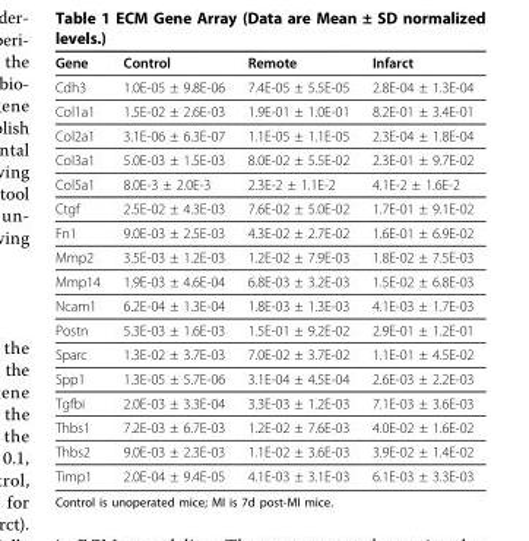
<table><thead><tr><td>Gene</td><td>Control</td><td>Remote</td><td>Infarct</td></tr></thead><tbody><tr><td>Cdh3</td><td>1.0E-05 ± 9.8E-06</td><td>7.4E-05 ± 5.5E-05</td><td>2.8E-04 ± 1.3E-04</td></tr><tr><td>Col1a1</td><td>1.5E-02 ± 2.6E-03</td><td>1.9E-01 ± 1.0E-01</td><td>8.2E-01 ± 3.4E-01</td></tr><tr><td>Col2a1</td><td>3.1E-06 ± 6.3E-07</td><td>1.1E-05 ± 1.1E-05</td><td>2.3E-04 ± 1.8E-04</td></tr><tr><td>Col3a1</td><td>5.0E-03 ± 1.5E-03</td><td>8.0E-02 ± 5.5E-02</td><td>2.3E-01 ± 9.7E-02</td></tr><tr><td>Col5a1</td><td>8.0E-3 ± 2.0E-3</td><td>2.3E-2 ± 1.1E-2</td><td>4.1E-2 ± 1.6E-2</td></tr><tr><td>Ctgf</td><td>2.5E-02 ± 4.3E-03</td><td>7.6E-02 ± 5.0E-02</td><td>1.7E-01 ± 9.1E-02</td></tr><tr><td>Fn1</td><td>9.0E-03 ± 2.5E-03</td><td>4.3E-02 ± 2.7E-02</td><td>1.6E-01 ± 6.9E-02</td></tr><tr><td>Mmp2</td><td>3.5E-03 ± 1.2E-03</td><td>1.2E-02 ± 7.9E-03</td><td>1.8E-02 ± 7.5E-03</td></tr><tr><td>Mmp14</td><td>1.9E-03 ± 4.6E-04</td><td>6.8E-03 ± 3.2E-03</td><td>1.5E-02 ± 6.8E-03</td></tr><tr><td>Ncam1</td><td>6.2E-04 ± 1.3E-04</td><td>1.8E-03 ± 1.3E-03</td><td>4.1E-03 ± 1.7E-03</td></tr><tr><td>Postn</td><td>5.3E-03 ± 1.6E-03</td><td>1.5E-01 ± 9.2E-02</td><td>2.9E-01 ± 1.2E-01</td></tr><tr><td>Sparc</td><td>1.3E-02 ± 3.7E-03</td><td>7.0E-02 ± 3.7E-02</td><td>1.1E-01 ± 4.5E-02</td></tr><tr><td>Spp1</td><td>1.3E-05 ± 5.7E-06</td><td>3.1E-04 ± 4.5E-04</td><td>2.6E-03 ± 2.2E-03</td></tr><tr><td>Tgfbi</td><td>2.0E-03 ± 3.3E-04</td><td>3.3E-03 ± 1.2E-03</td><td>7.1E-03 ± 3.6E-03</td></tr><tr><td>Thbs1</td><td>7.2E-03 ± 6.7E-03</td><td>1.2E-02 ± 7.6E-03</td><td>4.0E-02 ± 1.6E-02</td></tr><tr><td>Thbs2</td><td>9.0E-03 ± 2.3E-03</td><td>1.1E-02 ± 3.6E-03</td><td>3.9E-02 ± 1.4E-02</td></tr><tr><td>Timp1</td><td>2.0E-04 ± 9.4E-05</td><td>4.1E-03 ± 3.1E-03</td><td>6.1E-03 ± 3.3E-03</td></tr></tbody></table>